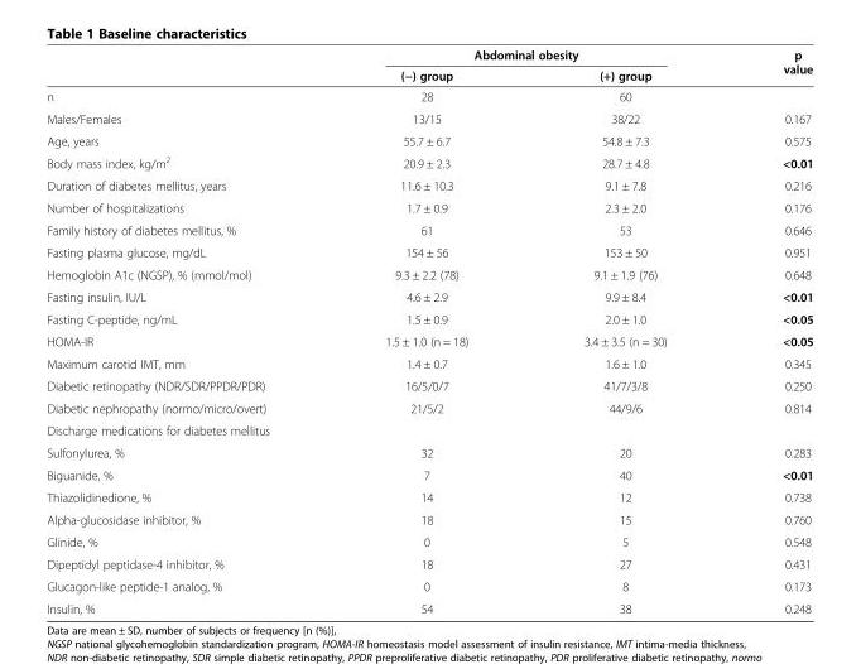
<table><thead><tr><td rowspan="2"></td><td colspan="2">Abdominal obesity</td><td rowspan="2">p value</td></tr><tr><td>(−) group</td><td>(+) group</td></tr></thead><tbody><tr><td>n</td><td>28</td><td>60</td><td></td></tr><tr><td>Males/Females</td><td>13/15</td><td>38/22</td><td>0.167</td></tr><tr><td>Age, years</td><td>55.7 ± 6.7</td><td>54.8 ± 7.3</td><td>0.575</td></tr><tr><td>Body mass index, kg/m<sup>2</sup></td><td>20.9 ± 2.3</td><td>28.7 ± 4.8</td><td>&lt;0.01</td></tr><tr><td>Duration of diabetes mellitus, years</td><td>11.6 ± 10.3</td><td>9.1 ± 7.8</td><td>0.216</td></tr><tr><td>Number of hospitalizations</td><td>1.7 ± 0.9</td><td>2.3 ± 2.0</td><td>0.176</td></tr><tr><td>Family history of diabetes mellitus, %</td><td>61</td><td>53</td><td>0.646</td></tr><tr><td>Fasting plasma glucose, mg/dL</td><td>154 ± 56</td><td>153 ± 50</td><td>0.951</td></tr><tr><td>Hemoglobin A1c (NGSP), % (mmol/mol)</td><td>9.3 ± 2.2 (78)</td><td>9.1 ± 1.9 (76)</td><td>0.648</td></tr><tr><td>Fasting insulin, IU/L</td><td>4.6 ± 2.9</td><td>9.9 ± 8.4</td><td>&lt;0.01</td></tr><tr><td>Fasting C-peptide, ng/mL</td><td>1.5 ± 0.9</td><td>2.0 ± 1.0</td><td>&lt;0.05</td></tr><tr><td>HOMA-IR</td><td>1.5 ± 1.0 (n = 18)</td><td>3.4 ± 3.5 (n = 30)</td><td>&lt;0.05</td></tr><tr><td>Maximum carotid IMT, mm</td><td>1.4 ± 0.7</td><td>1.6 ± 1.0</td><td>0.345</td></tr><tr><td>Diabetic retinopathy (NDR/SDR/PPDR/PDR)</td><td>16/5/0/7</td><td>41/7/3/8</td><td>0.250</td></tr><tr><td>Diabetic nephropathy (normo/micro/overt)</td><td>21/5/2</td><td>44/9/6</td><td>0.814</td></tr><tr><td colspan="4">Discharge medications for diabetes mellitus</td></tr><tr><td>Sulfonylurea, %</td><td>32</td><td>20</td><td>0.283</td></tr><tr><td>Biguanide, %</td><td>7</td><td>40</td><td>&lt;0.01</td></tr><tr><td>Thiazolidinedione, %</td><td>14</td><td>12</td><td>0.738</td></tr><tr><td>Alpha-glucosidase inhibitor, %</td><td>18</td><td>15</td><td>0.760</td></tr><tr><td>Glinide, %</td><td>0</td><td>5</td><td>0.548</td></tr><tr><td>Dipeptidyl peptidase-4 inhibitor, %</td><td>18</td><td>27</td><td>0.431</td></tr><tr><td>Glucagon-like peptide-1 analog, %</td><td>0</td><td>8</td><td>0.173</td></tr><tr><td>Insulin, %</td><td>54</td><td>38</td><td>0.248</td></tr></tbody></table>